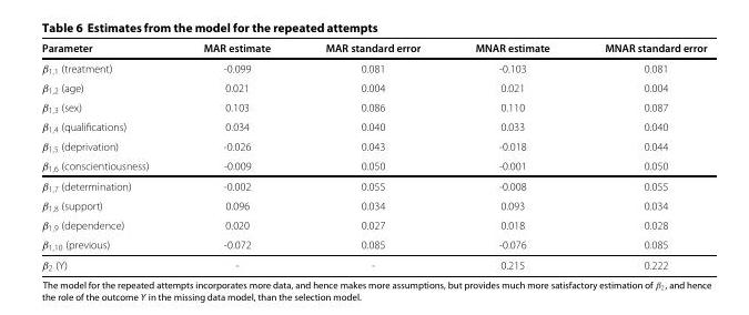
<table><thead><tr><td>Parameter</td><td>MAR estimate</td><td>MAR standard error</td><td>MNAR estimate</td><td>MNAR standard error</td></tr></thead><tbody><tr><td>β<sub>1,1</sub> (treatment)</td><td>-0.099</td><td>0.081</td><td>-0.103</td><td>0.081</td></tr><tr><td>β<sub>1,2</sub> (age)</td><td>0.021</td><td>0.004</td><td>0.021</td><td>0.004</td></tr><tr><td>β<sub>1,3</sub> (sex)</td><td>0.103</td><td>0.086</td><td>0.110</td><td>0.087</td></tr><tr><td>β<sub>1,4</sub> (qualifications)</td><td>0.034</td><td>0.040</td><td>0.033</td><td>0.040</td></tr><tr><td>β<sub>1,5</sub> (deprivation)</td><td>-0.026</td><td>0.043</td><td>-0.018</td><td>0.044</td></tr><tr><td>β<sub>1,6</sub> (conscientiousness)</td><td>-0.009</td><td>0.050</td><td>-0.001</td><td>0.050</td></tr><tr><td>β<sub>1,7</sub> (determination)</td><td>-0.002</td><td>0.055</td><td>-0.008</td><td>0.055</td></tr><tr><td>β<sub>1,8</sub> (support)</td><td>0.096</td><td>0.034</td><td>0.093</td><td>0.034</td></tr><tr><td>β<sub>1,9</sub> (dependence)</td><td>0.020</td><td>0.027</td><td>0.018</td><td>0.028</td></tr><tr><td>β<sub>1,10</sub> (previous)</td><td>-0.072</td><td>0.085</td><td>-0.076</td><td>0.085</td></tr><tr><td>β<sub>2</sub> (Y)</td><td>-</td><td>-</td><td>0.215</td><td>0.222</td></tr></tbody></table>